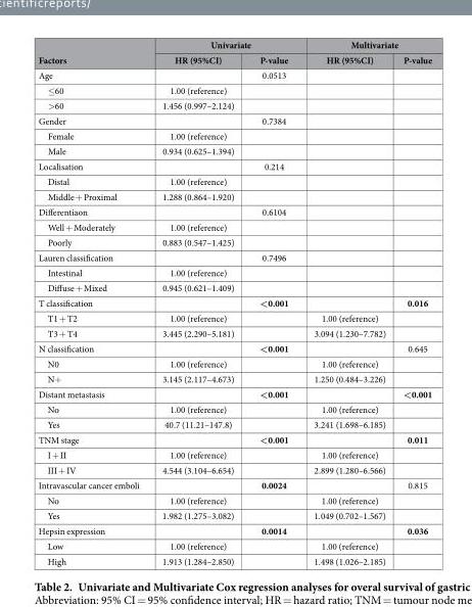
<table><thead><tr><td rowspan="2">Factors</td><td colspan="2">Univariate</td><td colspan="2">Multivariate</td></tr><tr><td>HR (95%CI)</td><td>P-value</td><td>HR (95%CI)</td><td>P-value</td></tr></thead><tbody><tr><td>Age</td><td></td><td>0.0513</td><td></td><td></td></tr><tr><td>≤ 60</td><td>1.00 (reference)</td><td></td><td></td><td></td></tr><tr><td>&gt; 60</td><td>1.456 (0.997–2.124)</td><td></td><td></td><td></td></tr><tr><td>Gender</td><td></td><td>0.7384</td><td></td><td></td></tr><tr><td>Female</td><td>1.00 (reference)</td><td></td><td></td><td></td></tr><tr><td>Male</td><td>0.934 (0.625–1.394)</td><td></td><td></td><td></td></tr><tr><td>Localisation</td><td></td><td>0.214</td><td></td><td></td></tr><tr><td>Distal</td><td>1.00 (reference)</td><td></td><td></td><td></td></tr><tr><td>Middle + Proximal</td><td>1.288 (0.864–1.920)</td><td></td><td></td><td></td></tr><tr><td>Differentiaon</td><td></td><td>0.6104</td><td></td><td></td></tr><tr><td>Well + Moderately</td><td>1.00 (reference)</td><td></td><td></td><td></td></tr><tr><td>Poorly</td><td>0.883 (0.547–1.425)</td><td></td><td></td><td></td></tr><tr><td>Lauren classification</td><td></td><td>0.7496</td><td></td><td></td></tr><tr><td>Intestinal</td><td>1.00 (reference)</td><td></td><td></td><td></td></tr><tr><td>Diffuse + Mixed</td><td>0.945 (0.621–1.409)</td><td></td><td></td><td></td></tr><tr><td>T classification</td><td></td><td>&lt;0.001</td><td></td><td>0.016</td></tr><tr><td>T1 + T2</td><td>1.00 (reference)</td><td></td><td>1.00 (reference)</td><td></td></tr><tr><td>T3 + T4</td><td>3.445 (2.290–5.181)</td><td></td><td>3.094 (1.230–7.782)</td><td></td></tr><tr><td>N classification</td><td></td><td>&lt;0.001</td><td></td><td>0.645</td></tr><tr><td>N0</td><td>1.00 (reference)</td><td></td><td>1.00 (reference)</td><td></td></tr><tr><td>N+</td><td>3.145 (2.117–4.673)</td><td></td><td>1.250 (0.484–3.226)</td><td></td></tr><tr><td>Distant metastasis</td><td></td><td>&lt;0.001</td><td></td><td>&lt;0.001</td></tr><tr><td>No</td><td>1.00 (reference)</td><td></td><td>1.00 (reference)</td><td></td></tr><tr><td>Yes</td><td>40.7 (11.21–147.8)</td><td></td><td>3.241 (1.698–6.185)</td><td></td></tr><tr><td>TNM stage</td><td></td><td>&lt;0.001</td><td></td><td>0.011</td></tr><tr><td>I + II</td><td>1.00 (reference)</td><td></td><td>1.00 (reference)</td><td></td></tr><tr><td>III + IV</td><td>4.544 (3.104–6.654)</td><td></td><td>2.899 (1.280–6.566)</td><td></td></tr><tr><td>Intravascular cancer emboli</td><td></td><td>0.0024</td><td></td><td>0.815</td></tr><tr><td>No</td><td>1.00 (reference)</td><td></td><td>1.00 (reference)</td><td></td></tr><tr><td>Yes</td><td>1.982 (1.275–3.082)</td><td></td><td>1.049 (0.702–1.567)</td><td></td></tr><tr><td>Hepsin expression</td><td></td><td>0.0014</td><td></td><td>0.036</td></tr><tr><td>Low</td><td>1.00 (reference)</td><td></td><td>1.00 (reference)</td><td></td></tr><tr><td>High</td><td>1.913 (1.284–2.850)</td><td></td><td>1.498 (1.026–2.185)</td><td></td></tr></tbody></table>